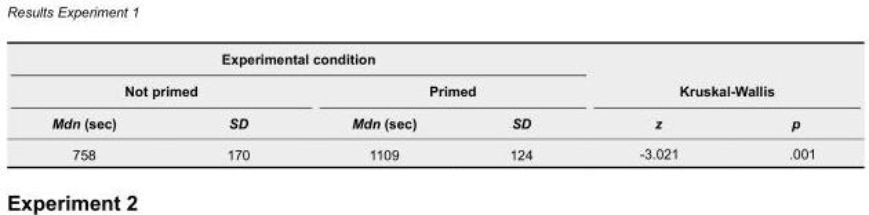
<table><thead><tr><td colspan="4">Experimental condition</td><td rowspan="2" colspan="2">Kruskal-Wallis</td></tr><tr><td colspan="2">Not primed</td><td colspan="2">Primed</td></tr><tr><td>Mdn (sec)</td><td>SD</td><td>Mdn (sec)</td><td>SD</td><td>z</td><td>p</td></tr></thead><tbody><tr><td>758</td><td>170</td><td>1109</td><td>124</td><td>-3.021</td><td>.001</td></tr></tbody></table>